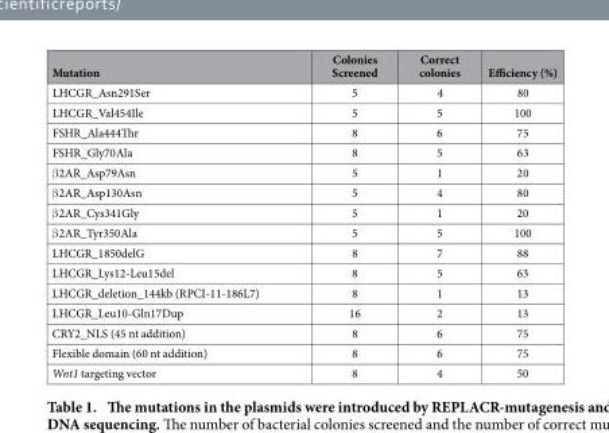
<table><thead><tr><td>Mutation</td><td>Colonies Screened</td><td>Correct colonies</td><td>Efficiency (%)</td></tr></thead><tbody><tr><td>LHCGR_Asn291Ser</td><td>5</td><td>4</td><td>80</td></tr><tr><td>LHCGR_Val454Ile</td><td>5</td><td>5</td><td>100</td></tr><tr><td>FSHR_Ala444Thr</td><td>8</td><td>6</td><td>75</td></tr><tr><td>FSHR_Gly70Ala</td><td>8</td><td>5</td><td>63</td></tr><tr><td>β 2AR_Asp79Asn</td><td>5</td><td>1</td><td>20</td></tr><tr><td>β 2AR_Asp130Asn</td><td>5</td><td>4</td><td>80</td></tr><tr><td>β 2AR_Cys341Gly</td><td>5</td><td>1</td><td>20</td></tr><tr><td>β 2AR_Tyr350Ala</td><td>5</td><td>5</td><td>100</td></tr><tr><td>LHCGR_1850delG</td><td>8</td><td>7</td><td>88</td></tr><tr><td>LHCGR_Lys12-Leu15del</td><td>8</td><td>5</td><td>63</td></tr><tr><td>LHCGR_deletion_144kb (RPCI-11-186L7)</td><td>8</td><td>1</td><td>13</td></tr><tr><td>LHCGR_Leu10-Gln17Dup</td><td>16</td><td>2</td><td>13</td></tr><tr><td>CRY2_NLS (45 nt addition)</td><td>8</td><td>6</td><td>75</td></tr><tr><td>Flexible domain (60 nt addition)</td><td>8</td><td>6</td><td>75</td></tr><tr><td>Wnt1 targeting vector</td><td>8</td><td>4</td><td>50</td></tr></tbody></table>